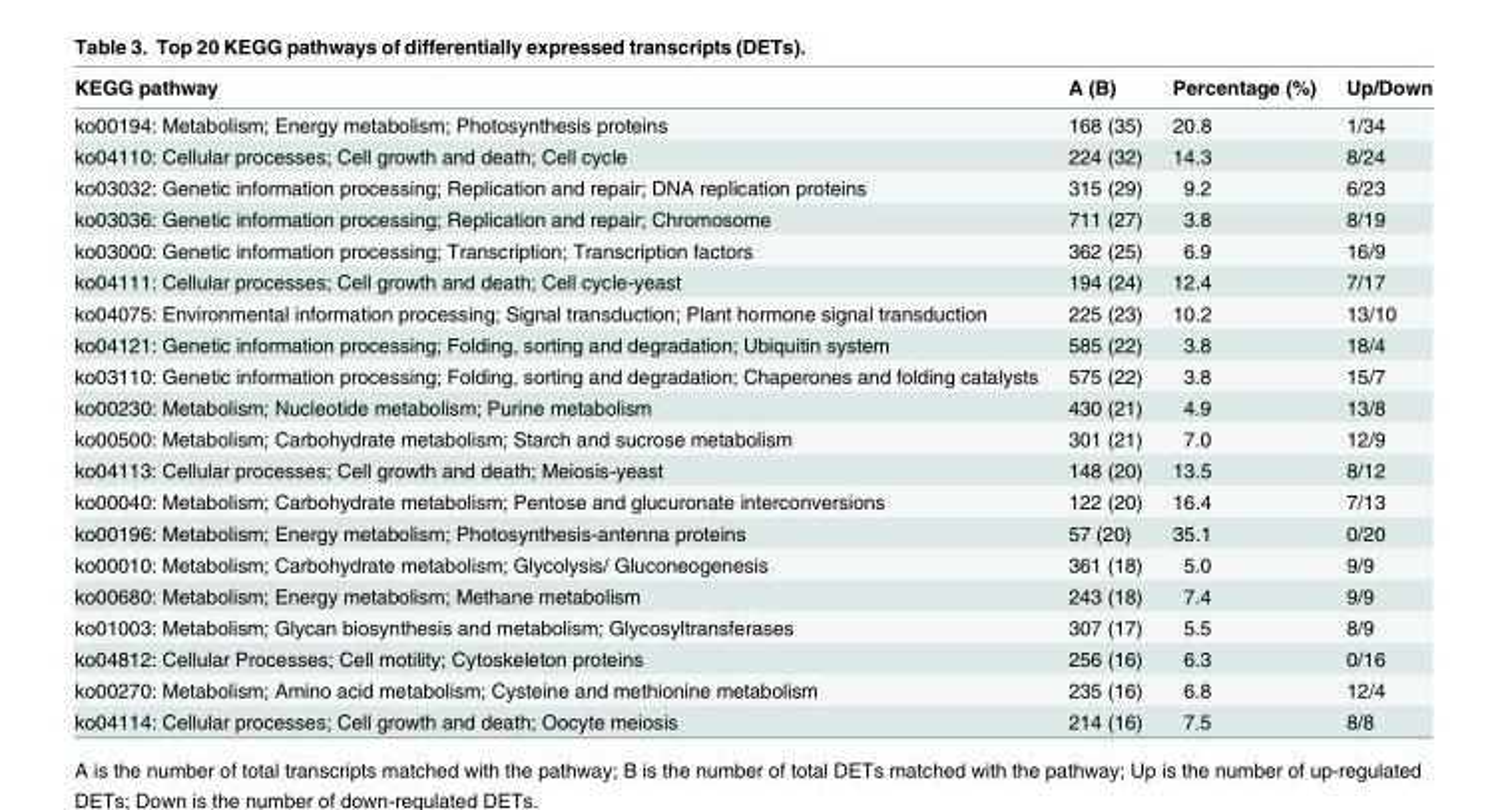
<table><thead><tr><td>KEGG pathway</td><td>A (B)</td><td>Percentage (%)</td><td>Up/Down</td></tr></thead><tbody><tr><td>ko00194: Metabolism; Energy metabolism; Photosynthesis proteins</td><td>168 (35)</td><td>20.8</td><td>1/34</td></tr><tr><td>ko04110: Cellular processes; Cell growth and death; Cell cycle</td><td>224 (32)</td><td>14.3</td><td>8/24</td></tr><tr><td>ko03032: Genetic information processing; Replication and repair; DNA replication proteins</td><td>315 (29)</td><td>9.2</td><td>6/23</td></tr><tr><td>ko03036: Genetic information processing; Replication and repair; Chromosome</td><td>711 (27)</td><td>3.8</td><td>8/19</td></tr><tr><td>ko03000: Genetic information processing; Transcription; Transcription factors</td><td>362 (25)</td><td>6.9</td><td>16/9</td></tr><tr><td>ko04111: Cellular processes; Cell growth and death; Cell cycle-yeast</td><td>194 (24)</td><td>12.4</td><td>7/17</td></tr><tr><td>ko04075: Environmental information processing; Signal transduction; Plant hormone signal transduction</td><td>225 (23)</td><td>10.2</td><td>13/10</td></tr><tr><td>ko04121: Genetic information processing; Folding, sorting and degradation; Ubiquitin system</td><td>585 (22)</td><td>3.8</td><td>18/4</td></tr><tr><td>ko03110: Genetic information processing; Folding, sorting and degradation; Chaperones and folding catalysts</td><td>575 (22)</td><td>3.8</td><td>15/7</td></tr><tr><td>ko00230: Metabolism; Nucleotide metabolism; Purine metabolism</td><td>430 (21)</td><td>4.9</td><td>13/8</td></tr><tr><td>ko00500: Metabolism; Carbohydrate metabolism; Starch and sucrose metabolism</td><td>301 (21)</td><td>7.0</td><td>12/9</td></tr><tr><td>ko04113: Cellular processes; Cell growth and death; Meiosis-yeast</td><td>148 (20)</td><td>13.5</td><td>8/12</td></tr><tr><td>ko00040: Metabolism; Carbohydrate metabolism; Pentose and glucuronate interconversions</td><td>122 (20)</td><td>16.4</td><td>7/13</td></tr><tr><td>ko00196: Metabolism; Energy metabolism; Photosynthesis-antenna proteins</td><td>57 (20)</td><td>35.1</td><td>0/20</td></tr><tr><td>ko00010: Metabolism; Carbohydrate metabolism; Glycolysis/ Gluconeogenesis</td><td>361 (18)</td><td>5.0</td><td>9/9</td></tr><tr><td>ko00680: Metabolism; Energy metabolism; Methane metabolism</td><td>243 (18)</td><td>7.4</td><td>9/9</td></tr><tr><td>ko01003: Metabolism; Glycan biosynthesis and metabolism; Glycosyltransferases</td><td>307 (17)</td><td>5.5</td><td>8/9</td></tr><tr><td>ko04812: Cellular Processes; Cell motility; Cytoskeleton proteins</td><td>256 (16)</td><td>6.3</td><td>0/16</td></tr><tr><td>ko00270: Metabolism; Amino acid metabolism; Cysteine and methionine metabolism</td><td>235 (16)</td><td>6.8</td><td>12/4</td></tr><tr><td>ko04114: Cellular processes; Cell growth and death; Oocyte meiosis</td><td>214 (16)</td><td>7.5</td><td>8/8</td></tr></tbody></table>